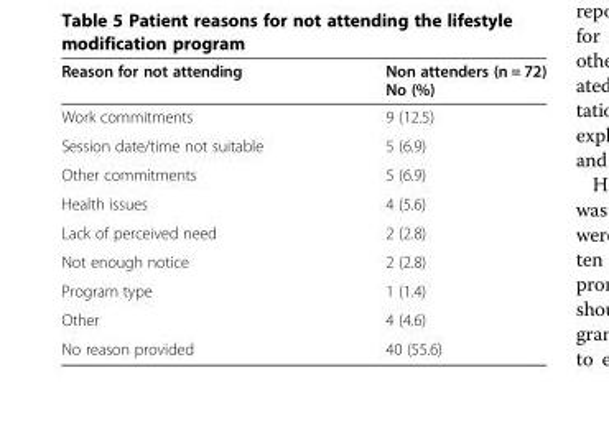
<table><thead><tr><td>Reason for not attending</td><td>Non attenders (n = 72) No (%)</td></tr></thead><tbody><tr><td>Work commitments</td><td>9 (12.5)</td></tr><tr><td>Session date/time not suitable</td><td>5 (6.9)</td></tr><tr><td>Other commitments</td><td>5 (6.9)</td></tr><tr><td>Health issues</td><td>4 (5.6)</td></tr><tr><td>Lack of perceived need</td><td>2 (2.8)</td></tr><tr><td>Not enough notice</td><td>2 (2.8)</td></tr><tr><td>Program type</td><td>1 (1.4)</td></tr><tr><td>Other</td><td>4 (4.6)</td></tr><tr><td>No reason provided</td><td>40 (55.6)</td></tr></tbody></table>